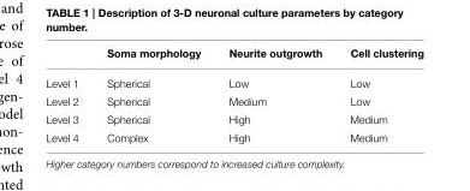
<table><thead><tr><td></td><td>Soma morphology</td><td>Neurite outgrowth</td><td>Cell clustering</td></tr></thead><tbody><tr><td>Level 1</td><td>Spherical</td><td>Low</td><td>Low</td></tr><tr><td>Level 2</td><td>Spherical</td><td>Medium</td><td>Low</td></tr><tr><td>Level 3</td><td>Spherical</td><td>High</td><td>Medium</td></tr><tr><td>Level 4</td><td>Complex</td><td>High</td><td>Medium</td></tr></tbody></table>